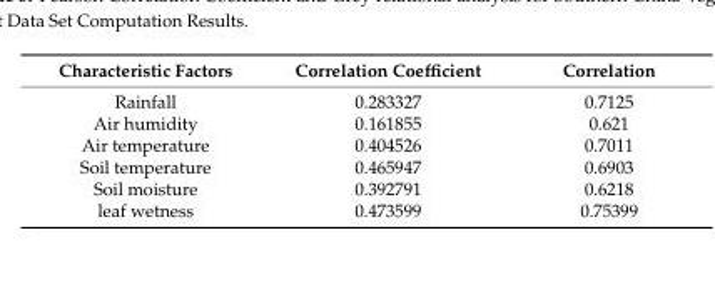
<table><thead><tr><td>Characteristic Factors</td><td>Correlation Coefficient</td><td>Correlation</td></tr></thead><tbody><tr><td>Rainfall</td><td>0.283327</td><td>0.7125</td></tr><tr><td>Air humidity</td><td>0.161855</td><td>0.621</td></tr><tr><td>Air temperature</td><td>0.404526</td><td>0.7011</td></tr><tr><td>Soil temperature</td><td>0.465947</td><td>0.6903</td></tr><tr><td>Soil moisture</td><td>0.392791</td><td>0.6218</td></tr><tr><td>leaf wetness</td><td>0.473599</td><td>0.75399</td></tr></tbody></table>